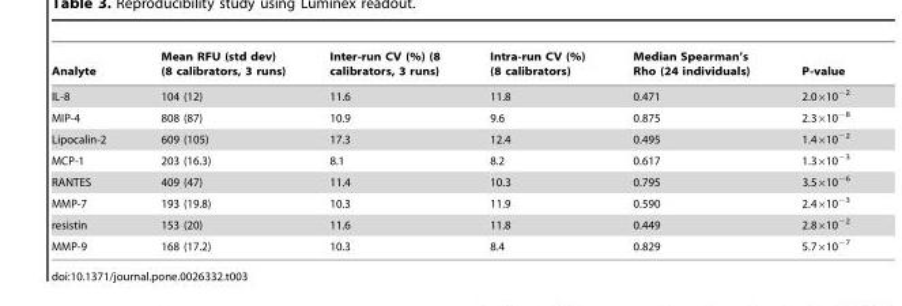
<table><thead><tr><td>Analyte</td><td>Mean RFU (std dev) (8 calibrators, 3 runs)</td><td>Inter-run CV (%) (8 calibrators, 3 runs)</td><td>Intra-run CV (%) (8 calibrators)</td><td>Median Spearman’s Rho (24 individuals)</td><td>P-value</td></tr></thead><tbody><tr><td>IL-8</td><td>104 (12)</td><td>11.6</td><td>11.8</td><td>0.471</td><td>2.0×10<sup>−2</sup></td></tr><tr><td>MIP-4</td><td>808 (87)</td><td>10.9</td><td>9.6</td><td>0.875</td><td>2.3×10<sup>−8</sup></td></tr><tr><td>Lipocalin-2</td><td>609 (105)</td><td>17.3</td><td>12.4</td><td>0.495</td><td>1.4×10<sup>−2</sup></td></tr><tr><td>MCP-1</td><td>203 (16.3)</td><td>8.1</td><td>8.2</td><td>0.617</td><td>1.3×10<sup>−3</sup></td></tr><tr><td>RANTES</td><td>409 (47)</td><td>11.4</td><td>10.3</td><td>0.795</td><td>3.5×10<sup>−6</sup></td></tr><tr><td>MMP-7</td><td>193 (19.8)</td><td>10.3</td><td>11.9</td><td>0.590</td><td>2.4×10<sup>−3</sup></td></tr><tr><td>resistin</td><td>153 (20)</td><td>11.6</td><td>11.8</td><td>0.449</td><td>2.8×10<sup>−2</sup></td></tr><tr><td>MMP-9</td><td>168 (17.2)</td><td>10.3</td><td>8.4</td><td>0.829</td><td>5.7×10<sup>−7</sup></td></tr></tbody></table>